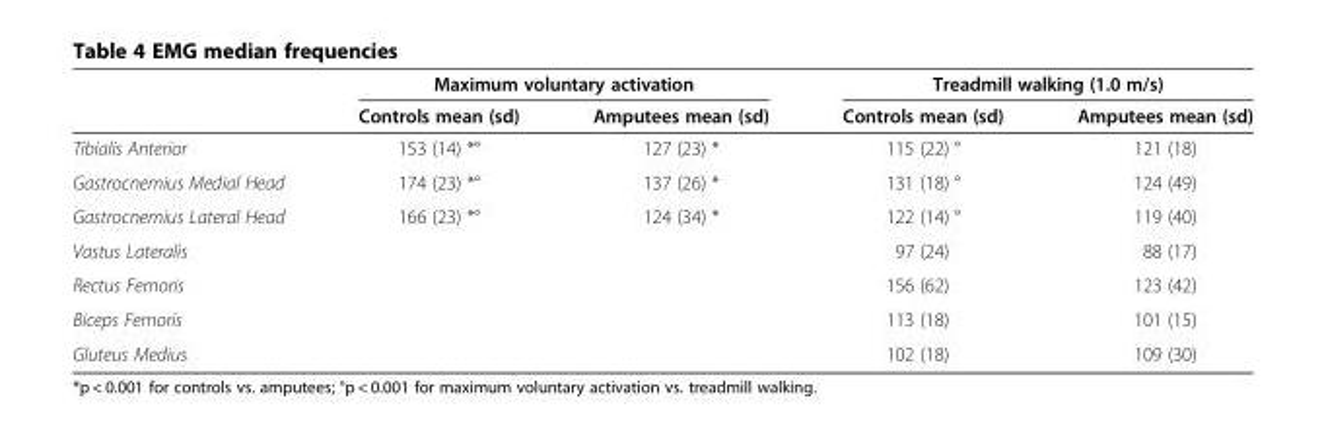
<table><thead><tr><td rowspan="2"></td><td colspan="2">Maximum voluntary activation</td><td colspan="2">Treadmill walking (1.0 m/s)</td></tr><tr><td>Controls mean (sd)</td><td>Amputees mean (sd)</td><td>Controls mean (sd)</td><td>Amputees mean (sd)</td></tr></thead><tbody><tr><td>Tibialis Anterior</td><td>153 (14) *°</td><td>127 (23) *</td><td>115 (22) °</td><td>121 (18)</td></tr><tr><td>Gastrocnemius Medial Head</td><td>174 (23) *°</td><td>137 (26) *</td><td>131 (18) °</td><td>124 (49)</td></tr><tr><td>Gastrocnemius Lateral Head</td><td>166 (23) *°</td><td>124 (34) *</td><td>122 (14) °</td><td>119 (40)</td></tr><tr><td>Vastus Lateralis</td><td></td><td></td><td>97 (24)</td><td>88 (17)</td></tr><tr><td>Rectus Femoris</td><td></td><td></td><td>156 (62)</td><td>123 (42)</td></tr><tr><td>Biceps Femoris</td><td></td><td></td><td>113 (18)</td><td>101 (15)</td></tr><tr><td>Gluteus Medius</td><td></td><td></td><td>102 (18)</td><td>109 (30)</td></tr></tbody></table>